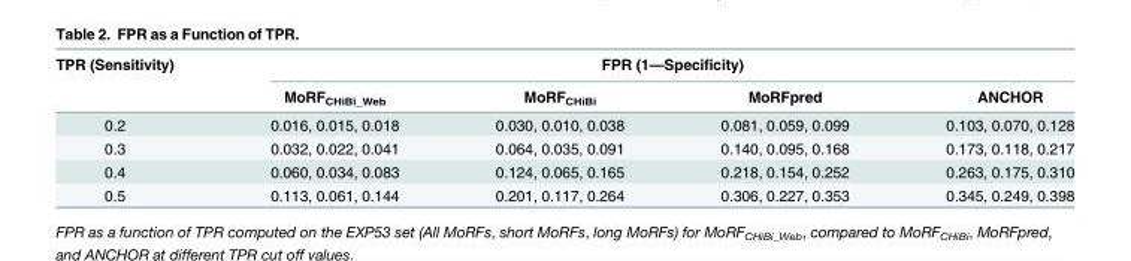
<table><thead><tr><td rowspan="2">TPR (Sensitivity)</td><td colspan="4">FPR (1—Specificity)</td></tr><tr><td>MoRF<sub>CHiBi_Web</sub></td><td>MoRF<sub>CHiBi</sub></td><td>MoRFpred</td><td>ANCHOR</td></tr></thead><tbody><tr><td>0.2</td><td>0.016, 0.015, 0.018</td><td>0.030, 0.010, 0.038</td><td>0.081, 0.059, 0.099</td><td>0.103, 0.070, 0.128</td></tr><tr><td>0.3</td><td>0.032, 0.022, 0.041</td><td>0.064, 0.035, 0.091</td><td>0.140, 0.095, 0.168</td><td>0.173, 0.118, 0.217</td></tr><tr><td>0.4</td><td>0.060, 0.034, 0.083</td><td>0.124, 0.065, 0.165</td><td>0.218, 0.154, 0.252</td><td>0.263, 0.175, 0.310</td></tr><tr><td>0.5</td><td>0.113, 0.061, 0.144</td><td>0.201, 0.117, 0.264</td><td>0.306, 0.227, 0.353</td><td>0.345, 0.249, 0.398</td></tr></tbody></table>